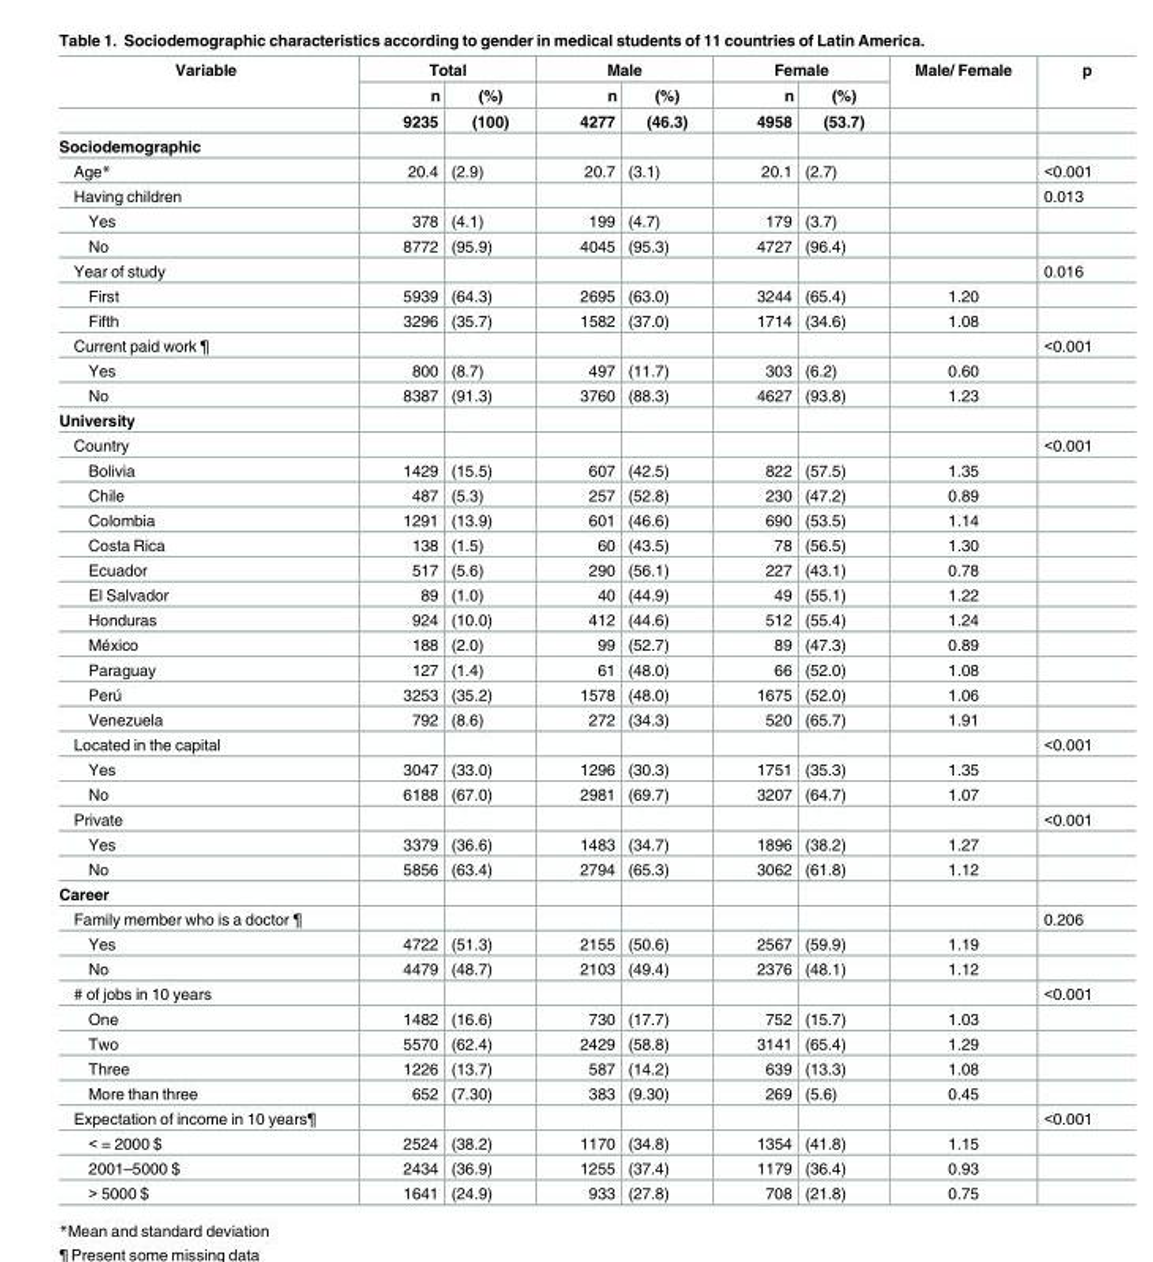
<table><thead><tr><td rowspan="2">Variable</td><td colspan="2">Total</td><td colspan="2">Male</td><td colspan="2">Female</td><td rowspan="2">Male/ Female</td><td rowspan="2">p</td></tr><tr><td>n</td><td>(%)</td><td>n</td><td>(%)</td><td>n</td><td>(%)</td></tr></thead><tbody><tr><td></td><td>9235</td><td>(100)</td><td>4277</td><td>(46.3)</td><td>4958</td><td>(53.7)</td><td></td><td></td></tr><tr><td colspan="9">Sociodemographic</td></tr><tr><td>Age*</td><td>20.4</td><td>(2.9)</td><td>20.7</td><td>(3.1)</td><td>20.1</td><td>(2.7)</td><td></td><td>&lt;0.001</td></tr><tr><td>Having children</td><td></td><td></td><td></td><td></td><td></td><td></td><td></td><td>0.013</td></tr><tr><td>Yes</td><td>378</td><td>(4.1)</td><td>199</td><td>(4.7)</td><td>179</td><td>(3.7)</td><td></td><td></td></tr><tr><td>No</td><td>8772</td><td>(95.9)</td><td>4045</td><td>(95.3)</td><td>4727</td><td>(96.4)</td><td></td><td></td></tr><tr><td>Year of study</td><td></td><td></td><td></td><td></td><td></td><td></td><td></td><td>0.016</td></tr><tr><td>First</td><td>5939</td><td>(64.3)</td><td>2695</td><td>(63.0)</td><td>3244</td><td>(65.4)</td><td>1.20</td><td></td></tr><tr><td>Fifth</td><td>3296</td><td>(35.7)</td><td>1582</td><td>(37.0)</td><td>1714</td><td>(34.6)</td><td>1.08</td><td></td></tr><tr><td>Current paid work ¶</td><td></td><td></td><td></td><td></td><td></td><td></td><td></td><td>&lt;0.001</td></tr><tr><td>Yes</td><td>800</td><td>(8.7)</td><td>497</td><td>(11.7)</td><td>303</td><td>(6.2)</td><td>0.60</td><td></td></tr><tr><td>No</td><td>8387</td><td>(91.3)</td><td>3760</td><td>(88.3)</td><td>4627</td><td>(93.8)</td><td>1.23</td><td></td></tr><tr><td colspan="9">University</td></tr><tr><td>Country</td><td></td><td></td><td></td><td></td><td></td><td></td><td></td><td>&lt;0.001</td></tr><tr><td>Bolivia</td><td>1429</td><td>(15.5)</td><td>607</td><td>(42.5)</td><td>822</td><td>(57.5)</td><td>1.35</td><td></td></tr><tr><td>Chile</td><td>487</td><td>(5.3)</td><td>257</td><td>(52.8)</td><td>230</td><td>(47.2)</td><td>0.89</td><td></td></tr><tr><td>Colombia</td><td>1291</td><td>(13.9)</td><td>601</td><td>(46.6)</td><td>690</td><td>(53.5)</td><td>1.14</td><td></td></tr><tr><td>Costa Rica</td><td>138</td><td>(1.5)</td><td>60</td><td>(43.5)</td><td>78</td><td>(56.5)</td><td>1.30</td><td></td></tr><tr><td>Ecuador</td><td>517</td><td>(5.6)</td><td>290</td><td>(56.1)</td><td>227</td><td>(43.1)</td><td>0.78</td><td></td></tr><tr><td>El Salvador</td><td>89</td><td>(1.0)</td><td>40</td><td>(44.9)</td><td>49</td><td>(55.1)</td><td>1.22</td><td></td></tr><tr><td>Honduras</td><td>924</td><td>(10.0)</td><td>412</td><td>(44.6)</td><td>512</td><td>(55.4)</td><td>1.24</td><td></td></tr><tr><td>México</td><td>188</td><td>(2.0)</td><td>99</td><td>(52.7)</td><td>89</td><td>(47.3)</td><td>0.89</td><td></td></tr><tr><td>Paraguay</td><td>127</td><td>(1.4)</td><td>61</td><td>(48.0)</td><td>66</td><td>(52.0)</td><td>1.08</td><td></td></tr><tr><td>Perú</td><td>3253</td><td>(35.2)</td><td>1578</td><td>(48.0)</td><td>1675</td><td>(52.0)</td><td>1.06</td><td></td></tr><tr><td>Venezuela</td><td>792</td><td>(8.6)</td><td>272</td><td>(34.3)</td><td>520</td><td>(65.7)</td><td>1.91</td><td></td></tr><tr><td>Located in the capital</td><td></td><td></td><td></td><td></td><td></td><td></td><td></td><td>&lt;0.001</td></tr><tr><td>Yes</td><td>3047</td><td>(33.0)</td><td>1296</td><td>(30.3)</td><td>1751</td><td>(35.3)</td><td>1.35</td><td></td></tr><tr><td>No</td><td>6188</td><td>(67.0)</td><td>2981</td><td>(69.7)</td><td>3207</td><td>(64.7)</td><td>1.07</td><td></td></tr><tr><td>Private</td><td></td><td></td><td></td><td></td><td></td><td></td><td></td><td>&lt;0.001</td></tr><tr><td>Yes</td><td>3379</td><td>(36.6)</td><td>1483</td><td>(34.7)</td><td>1896</td><td>(38.2)</td><td>1.27</td><td></td></tr><tr><td>No</td><td>5856</td><td>(63.4)</td><td>2794</td><td>(65.3)</td><td>3062</td><td>(61.8)</td><td>1.12</td><td></td></tr><tr><td colspan="9">Career</td></tr><tr><td>Family member who is a doctor ¶</td><td></td><td></td><td></td><td></td><td></td><td></td><td></td><td>0.206</td></tr><tr><td>Yes</td><td>4722</td><td>(51.3)</td><td>2155</td><td>(50.6)</td><td>2567</td><td>(59.9)</td><td>1.19</td><td></td></tr><tr><td>No</td><td>4479</td><td>(48.7)</td><td>2103</td><td>(49.4)</td><td>2376</td><td>(48.1)</td><td>1.12</td><td></td></tr><tr><td># of jobs in 10 years</td><td></td><td></td><td></td><td></td><td></td><td></td><td></td><td>&lt;0.001</td></tr><tr><td>One</td><td>1482</td><td>(16.6)</td><td>730</td><td>(17.7)</td><td>752</td><td>(15.7)</td><td>1.03</td><td></td></tr><tr><td>Two</td><td>5570</td><td>(62.4)</td><td>2429</td><td>(58.8)</td><td>3141</td><td>(65.4)</td><td>1.29</td><td></td></tr><tr><td>Three</td><td>1226</td><td>(13.7)</td><td>587</td><td>(14.2)</td><td>639</td><td>(13.3)</td><td>1.08</td><td></td></tr><tr><td>More than three</td><td>652</td><td>(7.30)</td><td>383</td><td>(9.30)</td><td>269</td><td>(5.6)</td><td>0.45</td><td></td></tr><tr><td>Expectation of income in 10 years¶</td><td></td><td></td><td></td><td></td><td></td><td></td><td></td><td>&lt;0.001</td></tr><tr><td>&lt; = 2000 $</td><td>2524</td><td>(38.2)</td><td>1170</td><td>(34.8)</td><td>1354</td><td>(41.8)</td><td>1.15</td><td></td></tr><tr><td>2001–5000 $</td><td>2434</td><td>(36.9)</td><td>1255</td><td>(37.4)</td><td>1179</td><td>(36.4)</td><td>0.93</td><td></td></tr><tr><td>&gt; 5000 $</td><td>1641</td><td>(24.9)</td><td>933</td><td>(27.8)</td><td>708</td><td>(21.8)</td><td>0.75</td><td></td></tr></tbody></table>